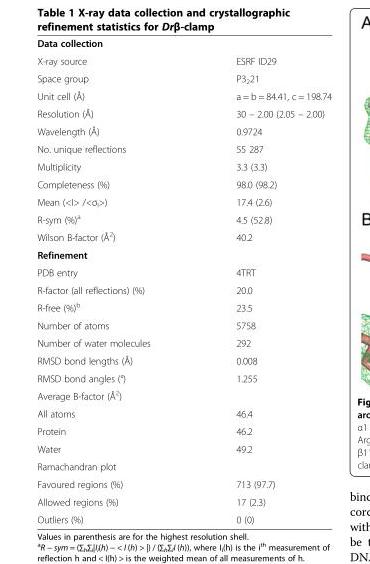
<table><tbody><tr><td colspan="2">Data collection</td></tr><tr><td>X-ray source</td><td>ESRF ID29</td></tr><tr><td>Space group</td><td>P3<sub>2</sub>21</td></tr><tr><td>Unit cell (Å)</td><td>a = b = 84.41, c = 198.74</td></tr><tr><td>Resolution (Å)</td><td>30 – 2.00 (2.05 – 2.00)</td></tr><tr><td>Wavelength (Å)</td><td>0.9724</td></tr><tr><td>No. unique reflections</td><td>55 287</td></tr><tr><td>Multiplicity</td><td>3.3 (3.3)</td></tr><tr><td>Completeness (%)</td><td>98.0 (98.2)</td></tr><tr><td>Mean (&lt;I&gt; /&lt;σ<sub>I</sub>&gt;)</td><td>17.4 (2.6)</td></tr><tr><td>R-sym (%)<sup>a</sup></td><td>4.5 (52.8)</td></tr><tr><td>Wilson B-factor (Å<sup>2</sup>)</td><td>40.2</td></tr><tr><td colspan="2">Refinement</td></tr><tr><td>PDB entry</td><td>4TRT</td></tr><tr><td>R-factor (all reflections) (%)</td><td>20.0</td></tr><tr><td>R-free (%)<sup>b</sup></td><td>23.5</td></tr><tr><td>Number of atoms</td><td>5758</td></tr><tr><td>Number of water molecules</td><td>292</td></tr><tr><td>RMSD bond lengths (Å)</td><td>0.008</td></tr><tr><td>RMSD bond angles (°)</td><td>1.255</td></tr><tr><td colspan="2">Average B-factor (Å<sup>2</sup>)</td></tr><tr><td>All atoms</td><td>46.4</td></tr><tr><td>Protein</td><td>46.2</td></tr><tr><td>Water</td><td>49.2</td></tr><tr><td colspan="2">Ramachandran plot</td></tr><tr><td>Favoured regions (%)</td><td>713 (97.7)</td></tr><tr><td>Allowed regions (%)</td><td>17 (2.3)</td></tr><tr><td>Outliers (%)</td><td>0 (0)</td></tr></tbody></table>